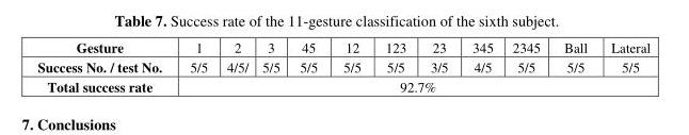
<table><tbody><tr><td>Gesture</td><td>1</td><td>2</td><td>3</td><td>45</td><td>12</td><td>123</td><td>23</td><td>345</td><td>2345</td><td>Ball</td><td>Lateral</td></tr><tr><td>Success No. / test No.</td><td>5/5</td><td>4/5/</td><td>5/5</td><td>5/5</td><td>5/5</td><td>5/5</td><td>3/5</td><td>4/5</td><td>5/5</td><td>5/5</td><td>5/5</td></tr><tr><td>Total success rate</td><td colspan="11">92.7%</td></tr></tbody></table>